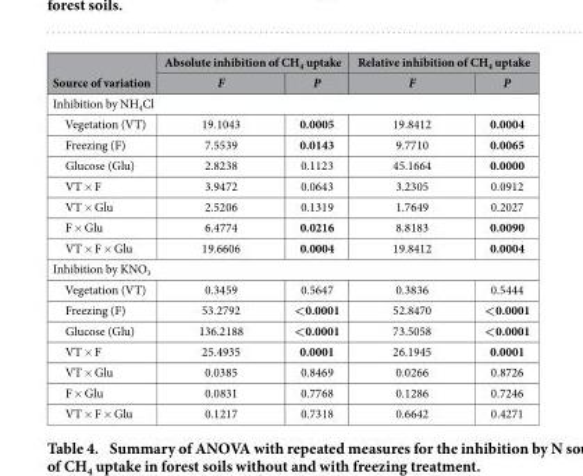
<table><thead><tr><td rowspan="2">Source of variation</td><td colspan="2">Absolute inhibition of CH<sub>4</sub> uptake</td><td colspan="2">Relative inhibition of CH<sub>4</sub> uptake</td></tr><tr><td>F</td><td>P</td><td>F</td><td>P</td></tr></thead><tbody><tr><td colspan="5">Inhibition by NH<sub>4</sub>Cl</td></tr><tr><td>Vegetation (VT)</td><td>19.1043</td><td>0.0005</td><td>19.8412</td><td>0.0004</td></tr><tr><td>Freezing (F)</td><td>7.5539</td><td>0.0143</td><td>9.7710</td><td>0.0065</td></tr><tr><td>Glucose (Glu)</td><td>2.8238</td><td>0.1123</td><td>45.1664</td><td>0.0000</td></tr><tr><td>VT × F</td><td>3.9472</td><td>0.0643</td><td>3.2305</td><td>0.0912</td></tr><tr><td>VT × Glu</td><td>2.5206</td><td>0.1319</td><td>1.7649</td><td>0.2027</td></tr><tr><td>F × Glu</td><td>6.4774</td><td>0.0216</td><td>8.8183</td><td>0.0090</td></tr><tr><td>VT × F × Glu</td><td>19.6606</td><td>0.0004</td><td>19.8412</td><td>0.0004</td></tr><tr><td colspan="5">Inhibition by KNO<sub>3</sub></td></tr><tr><td>Vegetation (VT)</td><td>0.3459</td><td>0.5647</td><td>0.3836</td><td>0.5444</td></tr><tr><td>Freezing (F)</td><td>53.2792</td><td>&lt;0.0001</td><td>52.8470</td><td>&lt;0.0001</td></tr><tr><td>Glucose (Glu)</td><td>136.2188</td><td>&lt;0.0001</td><td>73.5058</td><td>&lt;0.0001</td></tr><tr><td>VT × F</td><td>25.4935</td><td>0.0001</td><td>26.1945</td><td>0.0001</td></tr><tr><td>VT × Glu</td><td>0.0385</td><td>0.8469</td><td>0.0266</td><td>0.8726</td></tr><tr><td>F × Glu</td><td>0.0831</td><td>0.7768</td><td>0.1286</td><td>0.7246</td></tr><tr><td>VT × F × Glu</td><td>0.1217</td><td>0.7318</td><td>0.6642</td><td>0.4271</td></tr></tbody></table>